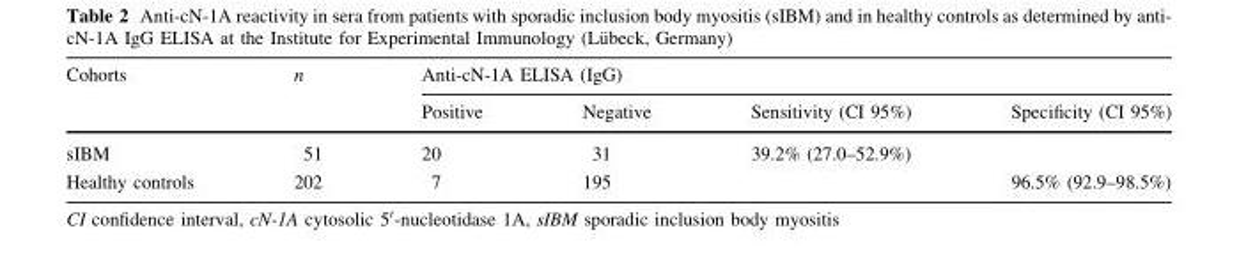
<table><thead><tr><td rowspan="2">Cohorts</td><td rowspan="2">n</td><td colspan="4">Anti-cN-1A ELISA (IgG)</td></tr><tr><td>Positive</td><td>Negative</td><td>Sensitivity (CI 95%)</td><td>Specificity (CI 95%)</td></tr></thead><tbody><tr><td>sIBM</td><td>51</td><td>20</td><td>31</td><td>39.2% (27.0–52.9%)</td><td></td></tr><tr><td>Healthy controls</td><td>202</td><td>7</td><td>195</td><td></td><td>96.5% (92.9–98.5%)</td></tr></tbody></table>